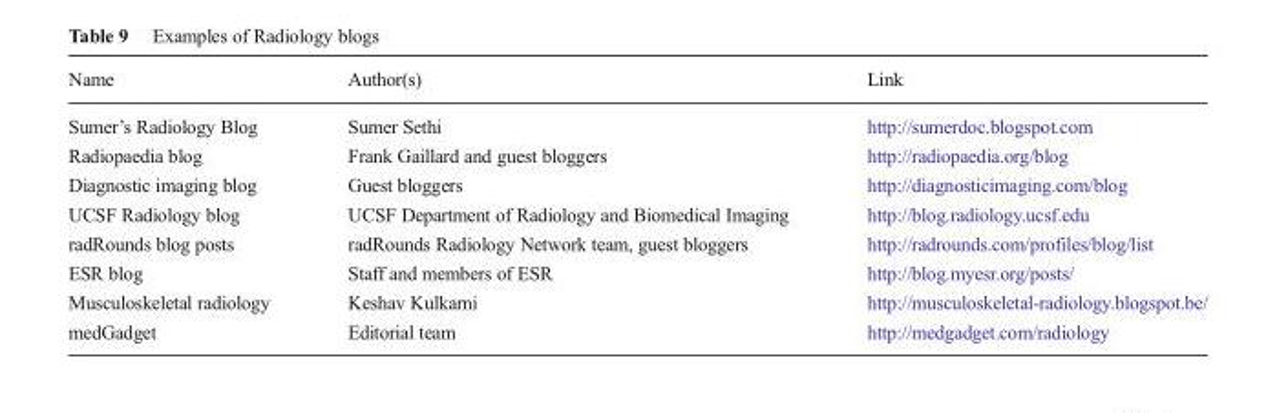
<table><thead><tr><td>Name</td><td>Author(s)</td><td>Link</td></tr></thead><tbody><tr><td>Sumer’s Radiology Blog</td><td>Sumer Sethi</td><td>http://sumerdoc.blogspot.com</td></tr><tr><td>Radiopaedia blog</td><td>Frank Gaillard and guest bloggers</td><td>http://radiopaedia.org/blog</td></tr><tr><td>Diagnostic imaging blog</td><td>Guest bloggers</td><td>http://diagnosticimaging.com/blog</td></tr><tr><td>UCSF Radiology blog</td><td>UCSF Department of Radiology and Biomedical Imaging</td><td>http://blog.radiology.ucsf.edu</td></tr><tr><td>radRounds blog posts</td><td>radRounds Radiology Network team, guest bloggers</td><td>http://radrounds.com/profiles/blog/list</td></tr><tr><td>ESR blog</td><td>Staff and members of ESR</td><td>http://blog.myesr.org/posts/</td></tr><tr><td>Musculoskeletal radiology</td><td>Keshav Kulkarni</td><td>http://musculoskeletal-radiology.blogspot.be/</td></tr><tr><td>medGadget</td><td>Editorial team</td><td>http://medgadget.com/radiology</td></tr></tbody></table>